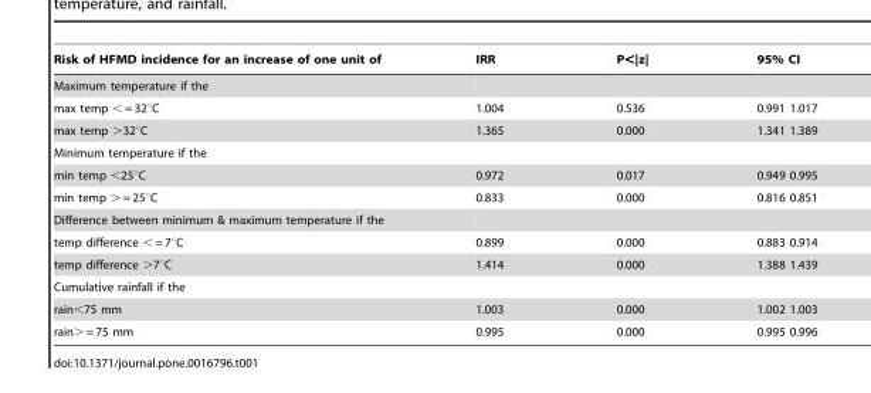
<table><thead><tr><td>Risk of HFMD incidence for an increase of one unit of</td><td>IRR</td><td>P&lt;|z|</td><td>95% CI</td></tr></thead><tbody><tr><td colspan="4">Maximum temperature if the</td></tr><tr><td>max temp &lt; = 32°C</td><td>1.004</td><td>0.536</td><td>0.991 1.017</td></tr><tr><td>max temp &gt;32°C</td><td>1.365</td><td>0.000</td><td>1.341 1.389</td></tr><tr><td colspan="4">Minimum temperature if the</td></tr><tr><td>min temp &lt;25°C</td><td>0.972</td><td>0.017</td><td>0.949 0.995</td></tr><tr><td>min temp &gt; = 25°C</td><td>0.833</td><td>0.000</td><td>0.816 0.851</td></tr><tr><td colspan="4">Difference between minimum &amp; maximum temperature if the</td></tr><tr><td>temp difference &lt; = 7°C</td><td>0.899</td><td>0.000</td><td>0.883 0.914</td></tr><tr><td>temp difference &gt;7°C</td><td>1.414</td><td>0.000</td><td>1.388 1.439</td></tr><tr><td colspan="4">Cumulative rainfall if the</td></tr><tr><td>rain&lt;75 mm</td><td>1.003</td><td>0.000</td><td>1.002 1.003</td></tr><tr><td>rain&gt; = 75 mm</td><td>0.995</td><td>0.000</td><td>0.995 0.996</td></tr></tbody></table>